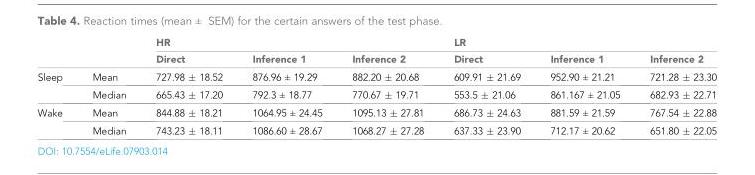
<table><thead><tr><td rowspan="2"></td><td rowspan="2"></td><td colspan="3">HR</td><td colspan="3">LR</td></tr><tr><td>Direct</td><td>Inference 1</td><td>Inference 2</td><td>Direct</td><td>Inference 1</td><td>Inference 2</td></tr></thead><tbody><tr><td rowspan="2">Sleep</td><td>Mean</td><td>727.98 ± 18.52</td><td>876.96 ± 19.29</td><td>882.20 ± 20.68</td><td>609.91 ± 21.69</td><td>952.90 ± 21.21</td><td>721.28 ± 23.30</td></tr><tr><td>Median</td><td>665.43 ± 17.20</td><td>792.3 ± 18.77</td><td>770.67 ± 19.71</td><td>553.5 ± 21.06</td><td>861.167 ± 21.05</td><td>682.93 ± 22.71</td></tr><tr><td rowspan="2">Wake</td><td>Mean</td><td>844.88 ± 18.21</td><td>1064.95 ± 24.45</td><td>1095.13 ± 27.81</td><td>686.73 ± 24.63</td><td>881.59 ± 21.59</td><td>767.54 ± 22.88</td></tr><tr><td>Median</td><td>743.23 ± 18.11</td><td>1086.60 ± 28.67</td><td>1068.27 ± 27.28</td><td>637.33 ± 23.90</td><td>712.17 ± 20.62</td><td>651.80 ± 22.05</td></tr></tbody></table>